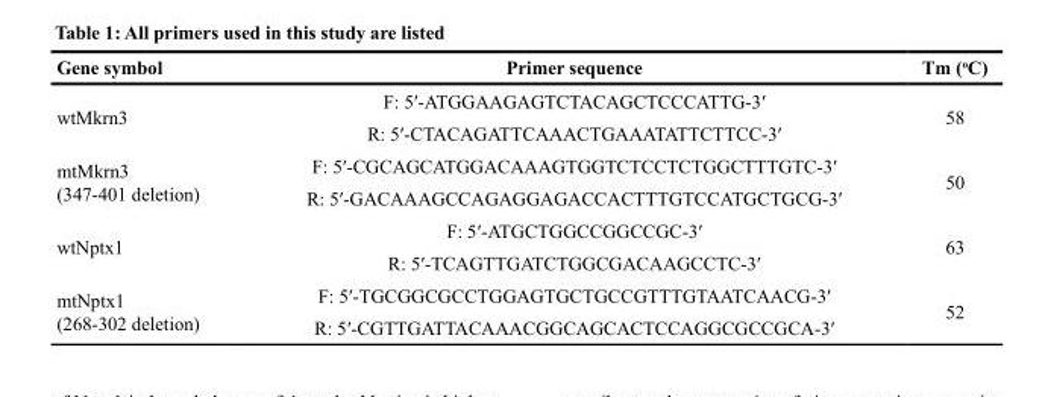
<table><thead><tr><td>Gene symbol</td><td>Primer sequence</td><td>Tm (°C)</td></tr></thead><tbody><tr><td rowspan="2">wtMkrn3</td><td>F: 5′-ATGGAAGAGTCTACAGCTCCCATTG-3′</td><td rowspan="2">58</td></tr><tr><td>R: 5′-CTACAGATTCAAACTGAAATATTCTTCC-3′</td></tr><tr><td rowspan="2">mtMkrn3 (347-401 deletion)</td><td>F: 5′-CGCAGCATGGACAAAGTGGTCTCCTCTGGCTTTGTC-3′</td><td rowspan="2">50</td></tr><tr><td>R: 5′-GACAAAGCCAGAGGAGACCACTTTGTCCATGCTGCG-3′</td></tr><tr><td rowspan="2">wtNptx1</td><td>F: 5′-ATGCTGGCCGGCCGC-3′</td><td rowspan="2">63</td></tr><tr><td>R: 5′-TCAGTTGATCTGGCGACAAGCCTC-3′</td></tr><tr><td rowspan="2">mtNptx1 (268-302 deletion)</td><td>F: 5′-TGCGGCGCCTGGAGTGCTGCCGTTTGTAATCAACG-3′</td><td rowspan="2">52</td></tr><tr><td>R: 5′-CGTTGATTACAAACGGCAGCACTCCAGGCGCCGCA-3′</td></tr></tbody></table>